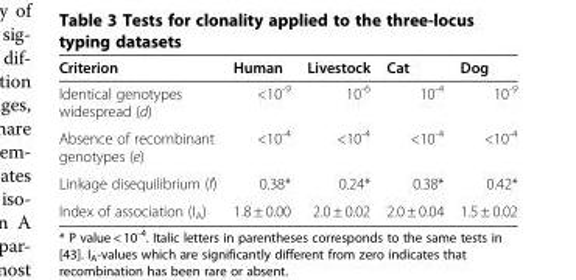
<table><thead><tr><td>Criterion</td><td>Human</td><td>Livestock</td><td>Cat</td><td>Dog</td></tr></thead><tbody><tr><td>Identical genotypes widespread (d)</td><td>&lt;10<sup>-9</sup></td><td>10<sup>-6</sup></td><td>10<sup>-4</sup></td><td>10<sup>-9</sup></td></tr><tr><td>Absence of recombinant genotypes (e)</td><td>&lt;10<sup>-4</sup></td><td>&lt;10<sup>-4</sup></td><td>&lt;10<sup>-4</sup></td><td>&lt;10<sup>-4</sup></td></tr><tr><td>Linkage disequilibrium (f)</td><td>0.38*</td><td>0.24*</td><td>0.38*</td><td>0.42*</td></tr><tr><td>Index of association (I<sub>A</sub>)</td><td>1.8 ± 0.00</td><td>2.0 ± 0.02</td><td>2.0 ± 0.04</td><td>1.5 ± 0.02</td></tr></tbody></table>